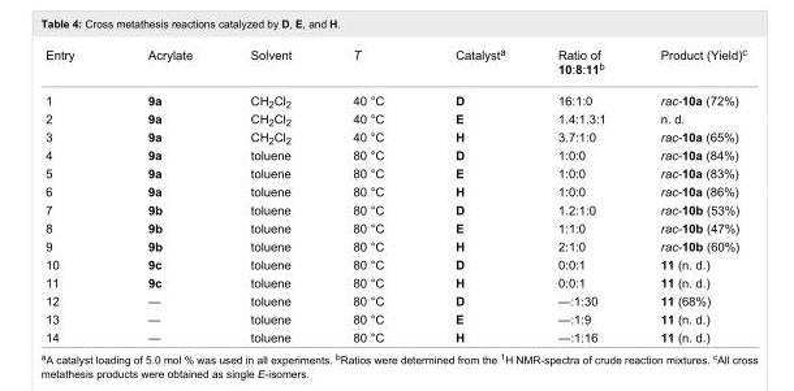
<table><tbody><tr><td>Entry</td><td>Acrylate</td><td>Solvent</td><td>T</td><td>Catalyst<sup>a</sup></td><td>Ratio of 10:8:11<sup>b</sup></td><td>Product (Yield)<sup>c</sup></td></tr><tr><td>1</td><td>9a</td><td>CH<sub>2</sub>Cl<sub>2</sub></td><td>40 °C</td><td>D</td><td>16:1:0</td><td>rac-10a (72%)</td></tr><tr><td>2</td><td>9a</td><td>CH<sub>2</sub>Cl<sub>2</sub></td><td>40 °C</td><td>E</td><td>1.4:1.3:1</td><td>n. d.</td></tr><tr><td>3</td><td>9a</td><td>CH<sub>2</sub>Cl<sub>2</sub></td><td>40 °C</td><td>H</td><td>3.7:1:0</td><td>rac-10a (65%)</td></tr><tr><td>4</td><td>9a</td><td>toluene</td><td>80 °C</td><td>D</td><td>1:0:0</td><td>rac-10a (84%)</td></tr><tr><td>5</td><td>9a</td><td>toluene</td><td>80 °C</td><td>E</td><td>1:0:0</td><td>rac-10a (83%)</td></tr><tr><td>6</td><td>9a</td><td>toluene</td><td>80 °C</td><td>H</td><td>1:0:0</td><td>rac-10a (86%)</td></tr><tr><td>7</td><td>9b</td><td>toluene</td><td>80 °C</td><td>D</td><td>1.2:1:0</td><td>rac-10b (53%)</td></tr><tr><td>8</td><td>9b</td><td>toluene</td><td>80 °C</td><td>E</td><td>1:1:0</td><td>rac-10b (47%)</td></tr><tr><td>9</td><td>9b</td><td>toluene</td><td>80 °C</td><td>H</td><td>2:1:0</td><td>rac-10b (60%)</td></tr><tr><td>10</td><td>9c</td><td>toluene</td><td>80 °C</td><td>D</td><td>0:0:1</td><td>11 (n. d.)</td></tr><tr><td>11</td><td>9c</td><td>toluene</td><td>80 °C</td><td>H</td><td>0:0:1</td><td>11 (n. d.)</td></tr><tr><td>12</td><td>—</td><td>toluene</td><td>80 °C</td><td>D</td><td>—:1:30</td><td>11 (68%)</td></tr><tr><td>13</td><td>—</td><td>toluene</td><td>80 °C</td><td>E</td><td>—:1:9</td><td>11 (n. d.)</td></tr><tr><td>14</td><td>—</td><td>toluene</td><td>80 °C</td><td>H</td><td>—:1:16</td><td>11 (n. d.)</td></tr></tbody></table>